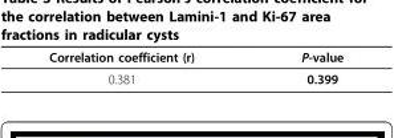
<table><thead><tr><td>Correlation coefficient (r)</td><td>P-value</td></tr></thead><tbody><tr><td>0.381</td><td>0.399</td></tr></tbody></table>